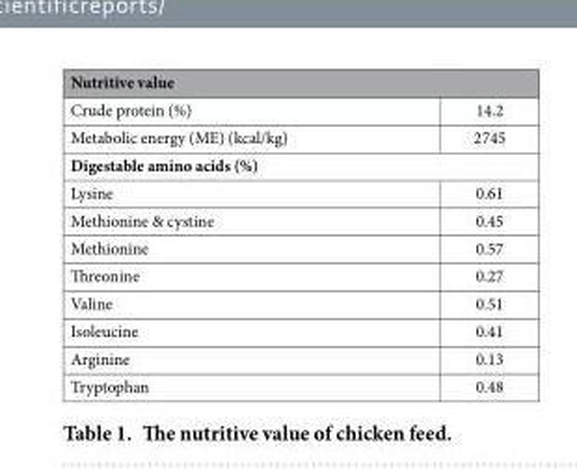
<table><thead><tr><td colspan="2">Nutritive value</td></tr><tr><td>Crude protein (%)</td><td>14.2</td></tr></thead><tbody><tr><td>Metabolic energy (ME) (kcal/kg)</td><td>2745</td></tr><tr><td colspan="2">Digestable amino acids (%)</td></tr><tr><td>Lysine</td><td>0.61</td></tr><tr><td>Methionine &amp; cystine</td><td>0.45</td></tr><tr><td>Methionine</td><td>0.57</td></tr><tr><td>Threonine</td><td>0.27</td></tr><tr><td>Valine</td><td>0.51</td></tr><tr><td>Isoleucine</td><td>0.41</td></tr><tr><td>Arginine</td><td>0.13</td></tr><tr><td>Tryptophan</td><td>0.48</td></tr></tbody></table>